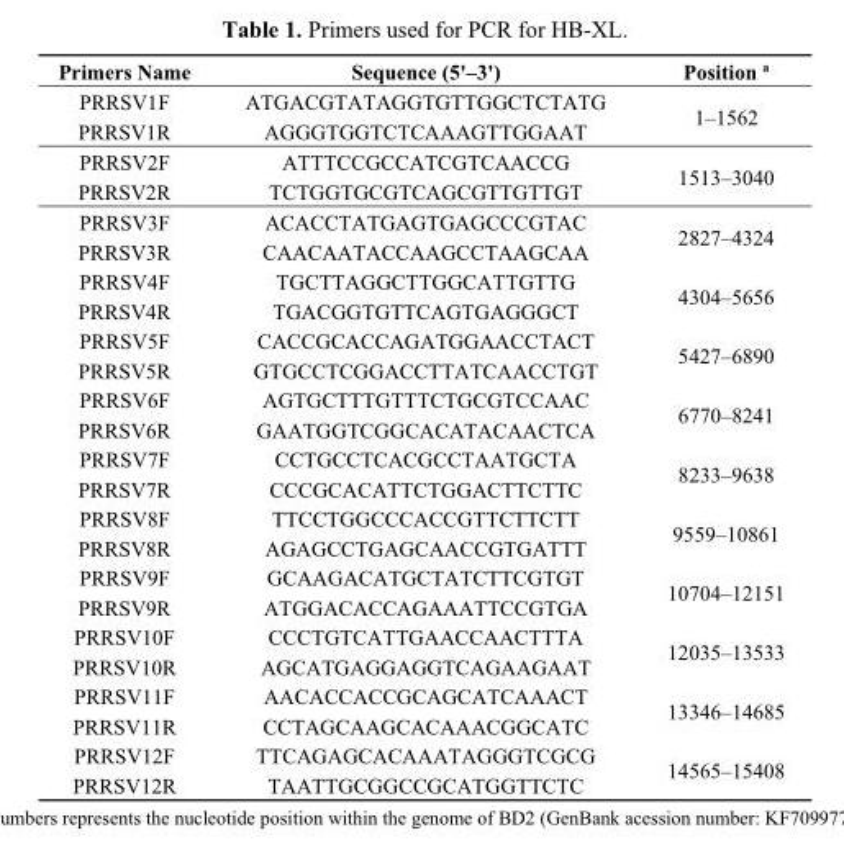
<table><thead><tr><td>Primers Name</td><td>Sequence (5&#x27;–3&#x27;)</td><td>Position <sup>a</sup></td></tr></thead><tbody><tr><td>PRRSV1F</td><td>ATGACGTATAGGTGTTGGCTCTATG</td><td rowspan="2">1–1562</td></tr><tr><td>PRRSV1R</td><td>AGGGTGGTCTCAAAGTTGGAAT</td></tr><tr><td>PRRSV2F</td><td>ATTTCCGCCATCGTCAACCG</td><td rowspan="2">1513–3040</td></tr><tr><td>PRRSV2R</td><td>TCTGGTGCGTCAGCGTTGTTGT</td></tr><tr><td>PRRSV3F</td><td>ACACCTATGAGTGAGCCCGTAC</td><td rowspan="2">2827–4324</td></tr><tr><td>PRRSV3R</td><td>CAACAATACCAAGCCTAAGCAA</td></tr><tr><td>PRRSV4F</td><td>TGCTTAGGCTTGGCATTGTTG</td><td rowspan="2">4304–5656</td></tr><tr><td>PRRSV4R</td><td>TGACGGTGTTCAGTGAGGGCT</td></tr><tr><td>PRRSV5F</td><td>CACCGCACCAGATGGAACCTACT</td><td rowspan="2">5427–6890</td></tr><tr><td>PRRSV5R</td><td>GTGCCTCGGACCTTATCAACCTGT</td></tr><tr><td>PRRSV6F</td><td>AGTGCTTTGTTTCTGCGTCCAAC</td><td rowspan="2">6770–8241</td></tr><tr><td>PRRSV6R</td><td>GAATGGTCGGCACATACAACTCA</td></tr><tr><td>PRRSV7F</td><td>CCTGCCTCACGCCTAATGCTA</td><td rowspan="2">8233–9638</td></tr><tr><td>PRRSV7R</td><td>CCCGCACATTCTGGACTTCTTC</td></tr><tr><td>PRRSV8F</td><td>TTCCTGGCCCACCGTTCTTCTT</td><td rowspan="2">9559–10861</td></tr><tr><td>PRRSV8R</td><td>AGAGCCTGAGCAACCGTGATTT</td></tr><tr><td>PRRSV9F</td><td>GCAAGACATGCTATCTTCGTGT</td><td rowspan="2">10704–12151</td></tr><tr><td>PRRSV9R</td><td>ATGGACACCAGAAATTCCGTGA</td></tr><tr><td>PRRSV10F</td><td>CCCTGTCATTGAACCAACTTTA</td><td rowspan="2">12035–13533</td></tr><tr><td>PRRSV10R</td><td>AGCATGAGGAGGTCAGAAGAAT</td></tr><tr><td>PRRSV11F</td><td>AACACCACCGCAGCATCAAACT</td><td rowspan="2">13346–14685</td></tr><tr><td>PRRSV11R</td><td>CCTAGCAAGCACAAACGGCATC</td></tr><tr><td>PRRSV12F</td><td>TTCAGAGCACAAATAGGGTCGCG</td><td rowspan="2">14565–15408</td></tr><tr><td>PRRSV12R</td><td>TAATTGCGGCCGCATGGTTCTC</td></tr></tbody></table>